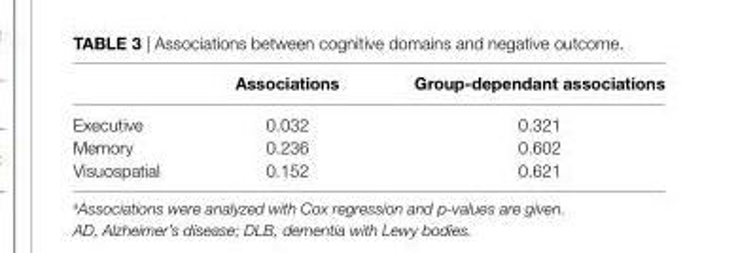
<table><thead><tr><td></td><td>associations</td><td>group-dependant associations</td></tr></thead><tbody><tr><td>Executive</td><td>0.032</td><td>0.321</td></tr><tr><td>Memory</td><td>0.236</td><td>0.602</td></tr><tr><td>Visuospatial</td><td>0.152</td><td>0.621</td></tr></tbody></table>